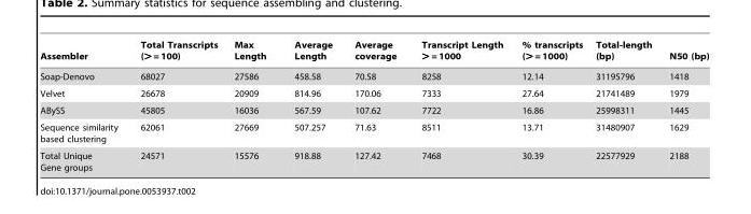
<table><thead><tr><td>Assembler</td><td>Total Transcripts (&gt; = 100)</td><td>Max Length</td><td>Average Length</td><td>Average coverage</td><td>Transcript Length &gt; = 1000</td><td>% transcripts (&gt; = 1000)</td><td>Total-length (bp)</td><td>N50 (bp)</td></tr></thead><tbody><tr><td>Soap-Denovo</td><td>68027</td><td>27586</td><td>458.58</td><td>70.58</td><td>8258</td><td>12.14</td><td>31195796</td><td>1418</td></tr><tr><td>Velvet</td><td>26678</td><td>20909</td><td>814.96</td><td>170.06</td><td>7333</td><td>27.64</td><td>21741489</td><td>1979</td></tr><tr><td>ABySS</td><td>45805</td><td>16036</td><td>567.59</td><td>107.62</td><td>7722</td><td>16.86</td><td>25998311</td><td>1445</td></tr><tr><td>Sequence similarity based clustering</td><td>62061</td><td>27669</td><td>507.257</td><td>71.63</td><td>8511</td><td>13.71</td><td>31480907</td><td>1629</td></tr><tr><td>Total Unique Gene groups</td><td>24571</td><td>15576</td><td>918.88</td><td>127.42</td><td>7468</td><td>30.39</td><td>22577929</td><td>2188</td></tr></tbody></table>